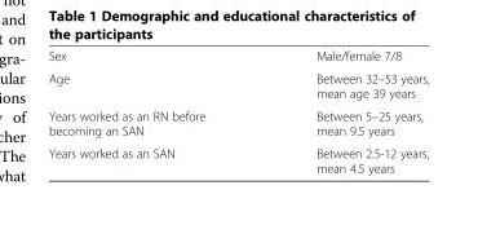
<table><tbody><tr><td>Sex</td><td>Male/female 7/8</td></tr><tr><td>Age</td><td>Between 32–53 years, mean age 39 years</td></tr><tr><td>Years worked as an RN before becoming an SAN</td><td>Between 5–25 years, mean 9.5 years</td></tr><tr><td>Years worked as an SAN</td><td>Between 2.5-12 years, mean 4.5 years</td></tr></tbody></table>